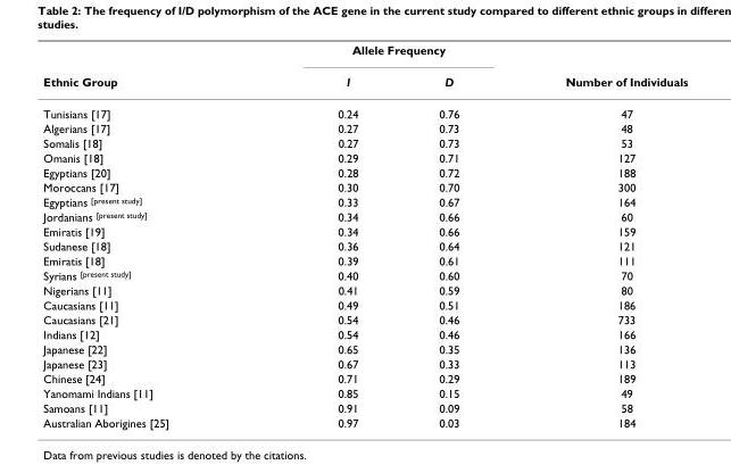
<table><thead><tr><td rowspan="2">Ethnic Group</td><td colspan="2">Allele Frequency</td><td rowspan="2">Number of Individuals</td></tr><tr><td>I</td><td>D</td></tr></thead><tbody><tr><td>Tunisians [17]</td><td>0.24</td><td>0.76</td><td>47</td></tr><tr><td>Algerians [17]</td><td>0.27</td><td>0.73</td><td>48</td></tr><tr><td>Somalis [18]</td><td>0.27</td><td>0.73</td><td>53</td></tr><tr><td>Omanis [18]</td><td>0.29</td><td>0.71</td><td>127</td></tr><tr><td>Egyptians [20]</td><td>0.28</td><td>0.72</td><td>188</td></tr><tr><td>Moroccans [17]</td><td>0.30</td><td>0.70</td><td>300</td></tr><tr><td>Egyptians <sup>[present study]</sup></td><td>0.33</td><td>0.67</td><td>164</td></tr><tr><td>Jordanians <sup>[present study]</sup></td><td>0.34</td><td>0.66</td><td>60</td></tr><tr><td>Emiratis [19]</td><td>0.34</td><td>0.66</td><td>159</td></tr><tr><td>Sudanese [18]</td><td>0.36</td><td>0.64</td><td>121</td></tr><tr><td>Emiratis [18]</td><td>0.39</td><td>0.61</td><td>111</td></tr><tr><td>Syrians <sup>[present study]</sup></td><td>0.40</td><td>0.60</td><td>70</td></tr><tr><td>Nigerians [11]</td><td>0.41</td><td>0.59</td><td>80</td></tr><tr><td>Caucasians [11]</td><td>0.49</td><td>0.51</td><td>186</td></tr><tr><td>Caucasians [21]</td><td>0.54</td><td>0.46</td><td>733</td></tr><tr><td>Indians [12]</td><td>0.54</td><td>0.46</td><td>166</td></tr><tr><td>Japanese [22]</td><td>0.65</td><td>0.35</td><td>136</td></tr><tr><td>Japanese [23]</td><td>0.67</td><td>0.33</td><td>113</td></tr><tr><td>Chinese [24]</td><td>0.71</td><td>0.29</td><td>189</td></tr><tr><td>Yanomami Indians [11]</td><td>0.85</td><td>0.15</td><td>49</td></tr><tr><td>Samoans [11]</td><td>0.91</td><td>0.09</td><td>58</td></tr><tr><td>Australian Aborigines [25]</td><td>0.97</td><td>0.03</td><td>184</td></tr></tbody></table>